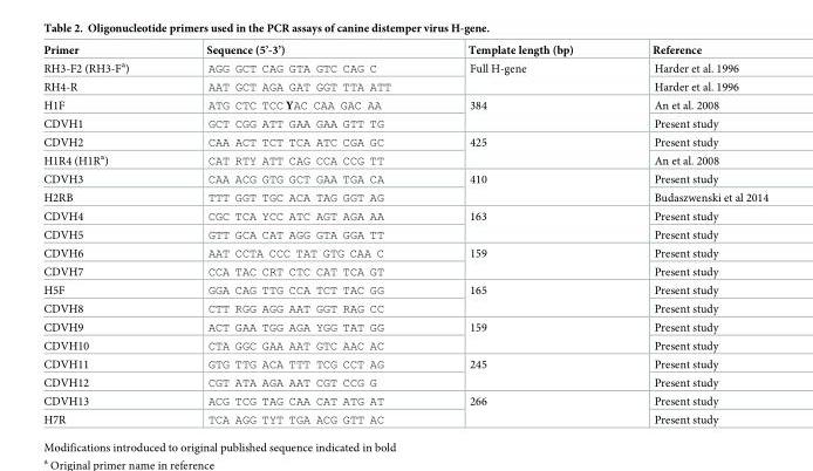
<table><thead><tr><td>Primer</td><td>Sequence (5’-3’)</td><td>Template length (bp)</td><td>Reference</td></tr></thead><tbody><tr><td>RH3-F2 (RH3-F<sup>a</sup>)</td><td>AGG GCT CAG GTA GTC CAG C</td><td rowspan="2">Full H-gene</td><td>Harder et al. 1996</td></tr><tr><td>RH4-R</td><td>AAT GCT AGA GAT GGT TTA ATT</td><td>Harder et al. 1996</td></tr><tr><td>H1F</td><td>ATG CTC TCC YAC CAA GAC AA</td><td rowspan="2">384</td><td>An et al. 2008</td></tr><tr><td>CDVH1</td><td>GCT CGG ATT GAA GAA GTT TG</td><td>Present study</td></tr><tr><td>CDVH2</td><td>CAA ACT TCT TCA ATC CGA GC</td><td rowspan="2">425</td><td>Present study</td></tr><tr><td>H1R4 (H1R<sup>a</sup>)</td><td>CAT RTY ATT CAG CCA CCG TT</td><td>An et al. 2008</td></tr><tr><td>CDVH3</td><td>CAA ACG GTG GCT GAA TGA CA</td><td rowspan="2">410</td><td>Present study</td></tr><tr><td>H2RB</td><td>TTT GGT TGC ACA TAG GGT AG</td><td>Budaszwenski et al 2014</td></tr><tr><td>CDVH4</td><td>CGC TCA YCC ATC AGT AGA AA</td><td rowspan="2">163</td><td>Present study</td></tr><tr><td>CDVH5</td><td>GTT GCA CAT AGG GTA GGA TT</td><td>Present study</td></tr><tr><td>CDVH6</td><td>AAT CCTA CCC TAT GTG CAA C</td><td rowspan="2">159</td><td>Present study</td></tr><tr><td>CDVH7</td><td>CCA TAC CRT CTC CAT TCA GT</td><td>Present study</td></tr><tr><td>H5F</td><td>GGA CAG TTG CCA TCT TAC GG</td><td rowspan="2">165</td><td>Present study</td></tr><tr><td>CDVH8</td><td>CTT RGG AGG AAT GGT RAG CC</td><td>Present study</td></tr><tr><td>CDVH9</td><td>ACT GAA TGG AGA YGG TAT GG</td><td rowspan="2">159</td><td>Present study</td></tr><tr><td>CDVH10</td><td>CTA GGC GAA AAT GTC AAC AC</td><td>Present study</td></tr><tr><td>CDVH11</td><td>GTG TTG ACA TTT TCG CCT AG</td><td rowspan="2">245</td><td>Present study</td></tr><tr><td>CDVH12</td><td>CGT ATA AGA AAT CGT CCG G</td><td>Present study</td></tr><tr><td>CDVH13</td><td>ACG TCG TAG CAA CAT ATG AT</td><td rowspan="2">266</td><td>Present study</td></tr><tr><td>H7R</td><td>TCA AGG TYT TGA ACG GTT AC</td><td>Present study</td></tr></tbody></table>